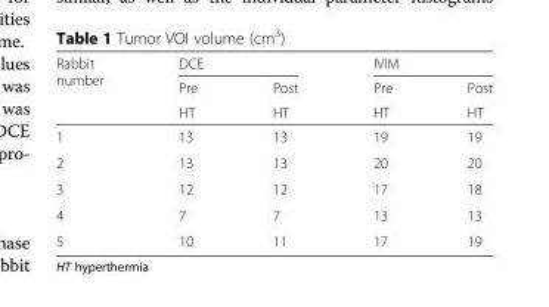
<table><thead><tr><td rowspan="3">Rabbit number</td><td colspan="2">DCE</td><td colspan="2">IVIM</td></tr><tr><td rowspan="2">Pre HT</td><td rowspan="2">Post HT</td><td rowspan="2">Pre HT</td><td rowspan="2">Post HT</td></tr><tr></tr></thead><tbody><tr><td>1</td><td>13</td><td>13</td><td>19</td><td>19</td></tr><tr><td>2</td><td>13</td><td>13</td><td>20</td><td>20</td></tr><tr><td>3</td><td>12</td><td>12</td><td>17</td><td>18</td></tr><tr><td>4</td><td>7</td><td>7</td><td>13</td><td>13</td></tr><tr><td>5</td><td>10</td><td>11</td><td>17</td><td>19</td></tr></tbody></table>